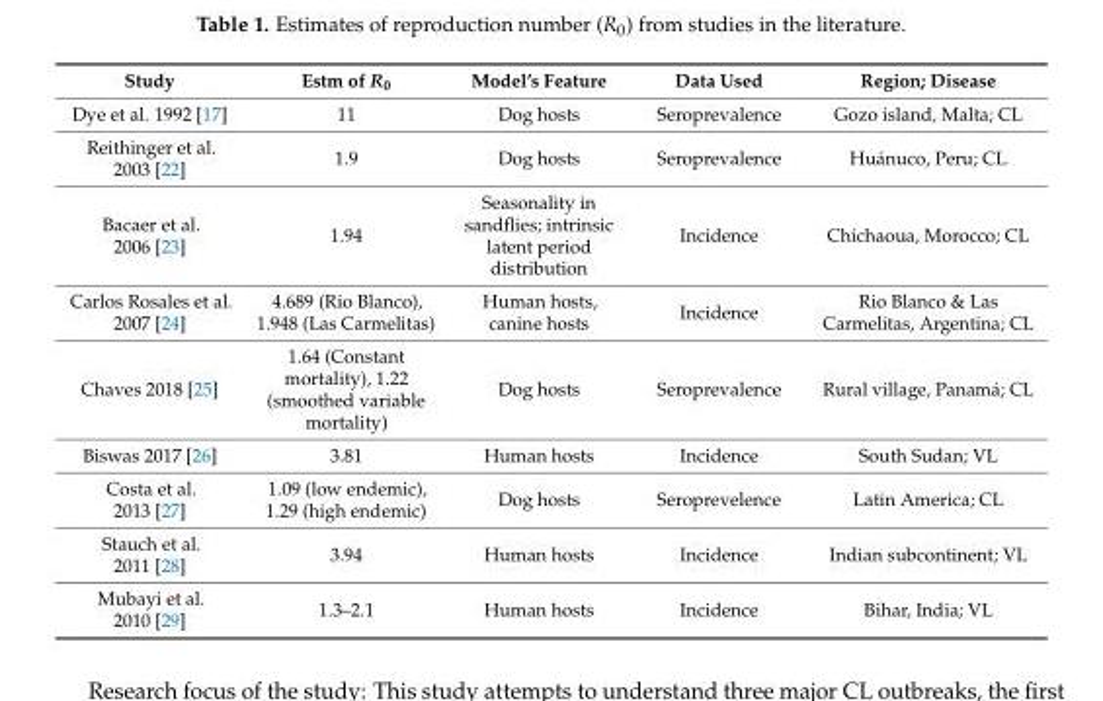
<table><thead><tr><td>Study</td><td>Estm of R<sub>0</sub></td><td>Model’s Feature</td><td>Data Used</td><td>Region; Disease</td></tr></thead><tbody><tr><td>Dye et al. 1992 [17]</td><td>11</td><td>Dog hosts</td><td>Seroprevalence</td><td>Gozo island, Malta; CL</td></tr><tr><td>Reithinger et al. 2003 [22]</td><td>1.9</td><td>Dog hosts</td><td>Seroprevalence</td><td>Huánuco, Peru; CL</td></tr><tr><td>Bacaer et al. 2006 [23]</td><td>1.94</td><td>Seasonality in sandflies; intrinsic latent period distribution</td><td>Incidence</td><td>Chichaoua, Morocco; CL</td></tr><tr><td>Carlos Rosales et al. 2007 [24]</td><td>4.689 (Rio Blanco), 1.948 (Las Carmelitas)</td><td>Human hosts, canine hosts</td><td>Incidence</td><td>Rio Blanco &amp; Las Carmelitas, Argentina; CL</td></tr><tr><td>Chaves 2018 [25]</td><td>1.64 (Constant mortality), 1.22 (smoothed variable mortality)</td><td>Dog hosts</td><td>Seroprevalence</td><td>Rural village, Panamá; CL</td></tr><tr><td>Biswas 2017 [26]</td><td>3.81</td><td>Human hosts</td><td>Incidence</td><td>South Sudan; VL</td></tr><tr><td>Costa et al. 2013 [27]</td><td>1.09 (low endemic), 1.29 (high endemic)</td><td>Dog hosts</td><td>Seroprevelence</td><td>Latin America; CL</td></tr><tr><td>Stauch et al. 2011 [28]</td><td>3.94</td><td>Human hosts</td><td>Incidence</td><td>Indian subcontinent; VL</td></tr><tr><td>Mubayi et al. 2010 [29]</td><td>1.3–2.1</td><td>Human hosts</td><td>Incidence</td><td>Bihar, India; VL</td></tr></tbody></table>